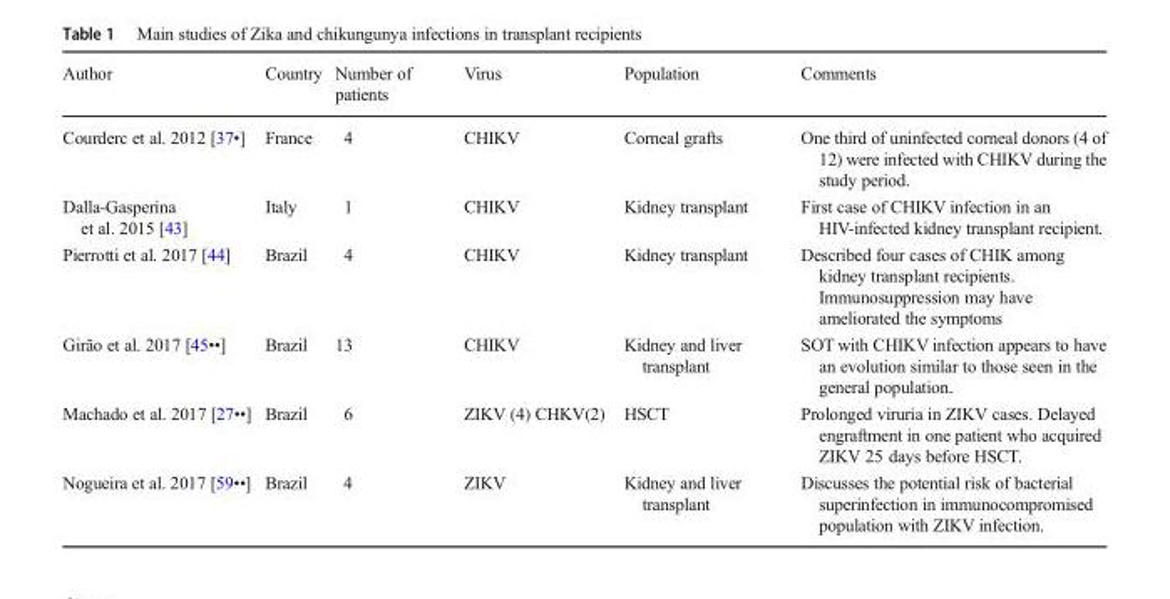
<table><thead><tr><td>Author</td><td>Country</td><td>Number of patients</td><td>Virus</td><td>Population</td><td>Comments</td></tr></thead><tbody><tr><td>Courderc et al. 2012 [37•]</td><td>France</td><td>4</td><td>CHIKV</td><td>Corneal grafts</td><td>One third of uninfected corneal donors (4 of 12) were infected with CHIKV during the study period.</td></tr><tr><td>Dalla-Gasperina et al. 2015 [43]</td><td>Italy</td><td>1</td><td>CHIKV</td><td>Kidney transplant</td><td>First case of CHIKV infection in an HIV-infected kidney transplant recipient.</td></tr><tr><td>Pierrotti et al. 2017 [44]</td><td>Brazil</td><td>4</td><td>CHIKV</td><td>Kidney transplant</td><td>Described four cases of CHIK among kidney transplant recipients. Immunosuppression may have ameliorated the symptoms</td></tr><tr><td>Girão et al. 2017 [45••]</td><td>Brazil</td><td>13</td><td>CHIKV</td><td>Kidney and liver transplant</td><td>SOT with CHIKV infection appears to have an evolution similar to those seen in the general population.</td></tr><tr><td>Machado et al. 2017 [27••]</td><td>Brazil</td><td>6</td><td>ZIKV (4) CHKV(2)</td><td>HSCT</td><td>Prolonged viruria in ZIKV cases. Delayed engraftment in one patient who acquired ZIKV 25 days before HSCT.</td></tr><tr><td>Nogueira et al. 2017 [59••]</td><td>Brazil</td><td>4</td><td>ZIKV</td><td>Kidney and liver transplant</td><td>Discusses the potential risk of bacterial superinfection in immunocompromised population with ZIKV infection.</td></tr></tbody></table>